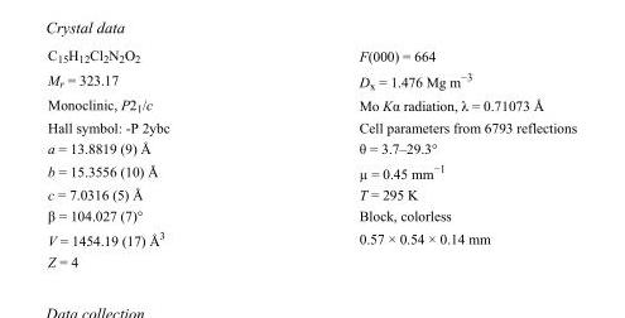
<table><tbody><tr><td>C<sub>15</sub>H<sub>12</sub>Cl<sub>2</sub>N<sub>2</sub>O<sub>2</sub></td><td>F(000) = 664</td></tr><tr><td>M<sub>r</sub> = 323.17</td><td>D<sub>x</sub> = 1.476 Mg m<sup>−3</sup></td></tr><tr><td>Monoclinic, P2<sub>1</sub>/c</td><td>Mo Kα radiation, λ = 0.71073 Å</td></tr><tr><td>Hall symbol: -P 2ybc</td><td>Cell parameters from 6793 reflections</td></tr><tr><td>a = 13.8819 (9) Å</td><td>θ = 3.7–29.3°</td></tr><tr><td>b = 15.3556 (10) Å</td><td>µ = 0.45 mm<sup>−1</sup></td></tr><tr><td>c = 7.0316 (5) Å</td><td>T = 295 K</td></tr><tr><td>β = 104.027 (7)°</td><td>Block, colorless</td></tr><tr><td>V = 1454.19 (17) Å<sup>3</sup></td><td>0.57 × 0.54 × 0.14 mm</td></tr><tr><td>Z = 4</td><td></td></tr></tbody></table>